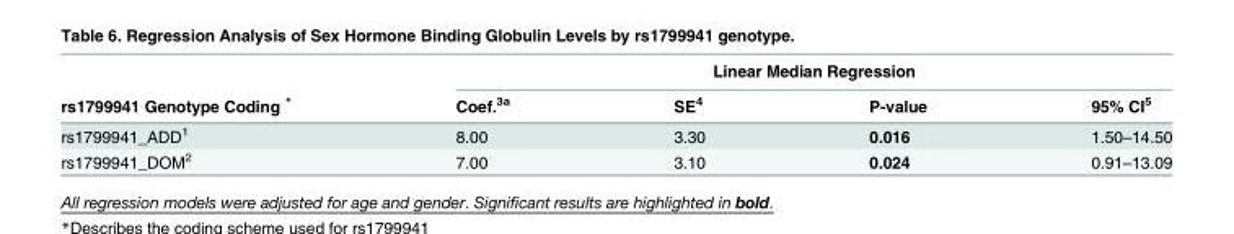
<table><thead><tr><td rowspan="2">rs1799941 Genotype Coding *</td><td colspan="4">Linear Median Regression</td></tr><tr><td>Coef.<sup>3a</sup></td><td>SE<sup>4</sup></td><td>P-value</td><td>95% CI<sup>5</sup></td></tr></thead><tbody><tr><td>rs1799941_ADD<sup>1</sup></td><td>8.00</td><td>3.30</td><td>0.016</td><td>1.50–14.50</td></tr><tr><td>rs1799941_DOM<sup>2</sup></td><td>7.00</td><td>3.10</td><td>0.024</td><td>0.91–13.09</td></tr></tbody></table>